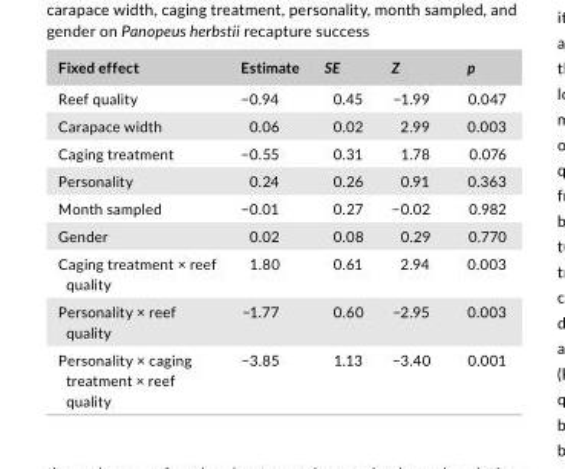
<table><thead><tr><td>Fixed effect</td><td>Estimate</td><td>SE</td><td>Z</td><td>p</td></tr></thead><tbody><tr><td>Reef quality</td><td>−0.94</td><td>0.45</td><td>−1.99</td><td>0.047</td></tr><tr><td>Carapace width</td><td>0.06</td><td>0.02</td><td>2.99</td><td>0.003</td></tr><tr><td>Caging treatment</td><td>−0.55</td><td>0.31</td><td>1.78</td><td>0.076</td></tr><tr><td>Personality</td><td>0.24</td><td>0.26</td><td>0.91</td><td>0.363</td></tr><tr><td>Month sampled</td><td>−0.01</td><td>0.27</td><td>−0.02</td><td>0.982</td></tr><tr><td>Gender</td><td>0.02</td><td>0.08</td><td>0.29</td><td>0.770</td></tr><tr><td>Caging treatment × reef quality</td><td>1.80</td><td>0.61</td><td>2.94</td><td>0.003</td></tr><tr><td>Personality × reef quality</td><td>−1.77</td><td>0.60</td><td>−2.95</td><td>0.003</td></tr><tr><td>Personality × caging treatment × reef quality</td><td>−3.85</td><td>1.13</td><td>−3.40</td><td>0.001</td></tr></tbody></table>